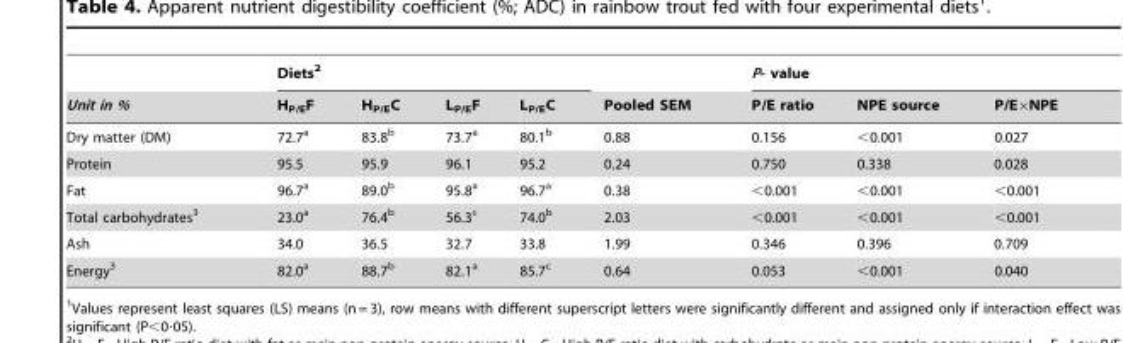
<table><thead><tr><td rowspan="2">Unit in %</td><td colspan="4">Diets<sup>2</sup></td><td rowspan="2">Pooled SEM</td><td colspan="3">P- value</td></tr><tr><td>H<sub>P/E</sub>F</td><td>H<sub>P/E</sub>C</td><td>L<sub>P/E</sub>F</td><td>L<sub>P/E</sub>C</td><td>P/E ratio</td><td>NPE source</td><td>P/E×NPE</td></tr></thead><tbody><tr><td>Dry matter (DM)</td><td>72.7<sup>a</sup></td><td>83.8<sup>b</sup></td><td>73.7<sup>a</sup></td><td>80.1<sup>b</sup></td><td>0.88</td><td>0.156</td><td>&lt;0.001</td><td>0.027</td></tr><tr><td>Protein</td><td>95.5</td><td>95.9</td><td>96.1</td><td>95.2</td><td>0.24</td><td>0.750</td><td>0.338</td><td>0.028</td></tr><tr><td>Fat</td><td>96.7<sup>a</sup></td><td>89.0<sup>b</sup></td><td>95.8<sup>a</sup></td><td>96.7<sup>a</sup></td><td>0.38</td><td>&lt;0.001</td><td>&lt;0.001</td><td>&lt;0.001</td></tr><tr><td>Total carbohydrates<sup>3</sup></td><td>23.0<sup>a</sup></td><td>76.4<sup>b</sup></td><td>56.3<sup>c</sup></td><td>74.0<sup>b</sup></td><td>2.03</td><td>&lt;0.001</td><td>&lt;0.001</td><td>&lt;0.001</td></tr><tr><td>Ash</td><td>34.0</td><td>36.5</td><td>32.7</td><td>33.8</td><td>1.99</td><td>0.346</td><td>0.396</td><td>0.709</td></tr><tr><td>Energy<sup>3</sup></td><td>82.0<sup>a</sup></td><td>88.7<sup>b</sup></td><td>82.1<sup>a</sup></td><td>85.7<sup>c</sup></td><td>0.64</td><td>0.053</td><td>&lt;0.001</td><td>0.040</td></tr></tbody></table>